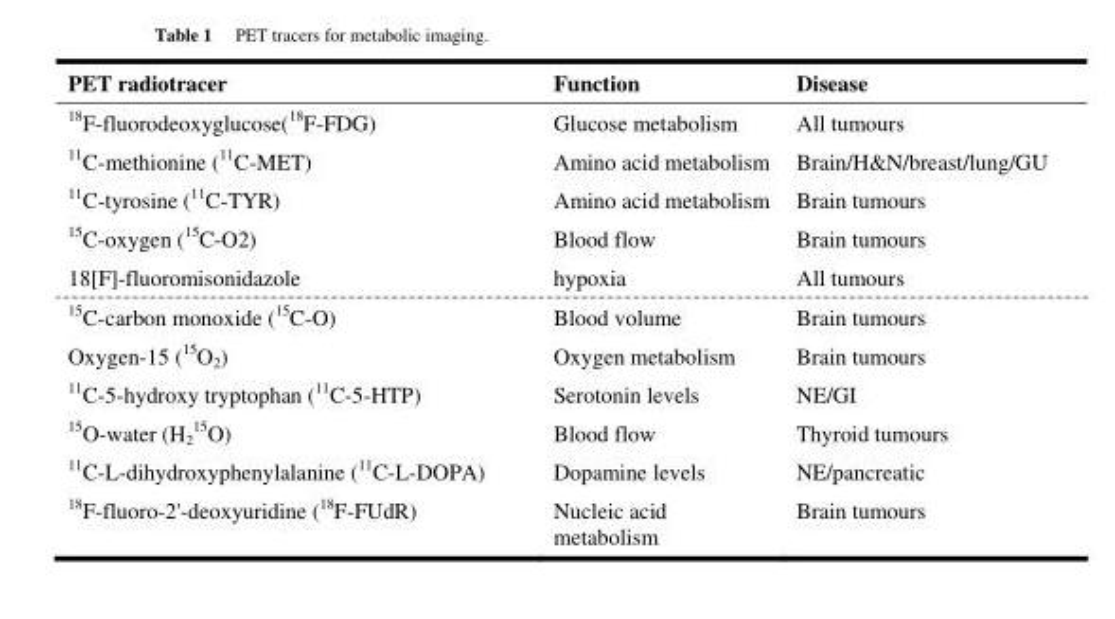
<table><thead><tr><td>PET radiotracer</td><td>Function</td><td>Disease</td></tr></thead><tbody><tr><td><sup>18</sup>F-fluorodeoxyglucose(<sup>18</sup>F-FDG)</td><td>Glucose metabolism</td><td>All tumours</td></tr><tr><td><sup>11</sup>C-methionine (<sup>11</sup>C-MET)</td><td>Amino acid metabolism</td><td>Brain/H&amp;N/breast/lung/GU</td></tr><tr><td><sup>11</sup>C-tyrosine (<sup>11</sup>C-TYR)</td><td>Amino acid metabolism</td><td>Brain tumours</td></tr><tr><td><sup>15</sup>C-oxygen (<sup>15</sup>C-O2)</td><td>Blood flow</td><td>Brain tumours</td></tr><tr><td>18[F]-fluoromisonidazole</td><td>hypoxia</td><td>All tumours</td></tr><tr><td><sup>15</sup>C-carbon monoxide (<sup>15</sup>C-O)</td><td>Blood volume</td><td>Brain tumours</td></tr><tr><td>Oxygen-15 (<sup>15</sup>O<sub>2</sub>)</td><td>Oxygen metabolism</td><td>Brain tumours</td></tr><tr><td><sup>11</sup>C-5-hydroxy tryptophan (<sup>11</sup>C-5-HTP)</td><td>Serotonin levels</td><td>NE/GI</td></tr><tr><td><sup>15</sup>O-water (H<sub>2</sub> <sup>15</sup>O)</td><td>Blood flow</td><td>Thyroid tumours</td></tr><tr><td><sup>11</sup>C-L-dihydroxyphenylalanine (<sup>11</sup>C-L-DOPA)</td><td>Dopamine levels</td><td>NE/pancreatic</td></tr><tr><td><sup>18</sup>F-fluoro-2&#x27;-deoxyuridine (<sup>18</sup>F-FUdR)</td><td>Nucleic acid metabolism</td><td>Brain tumours</td></tr></tbody></table>